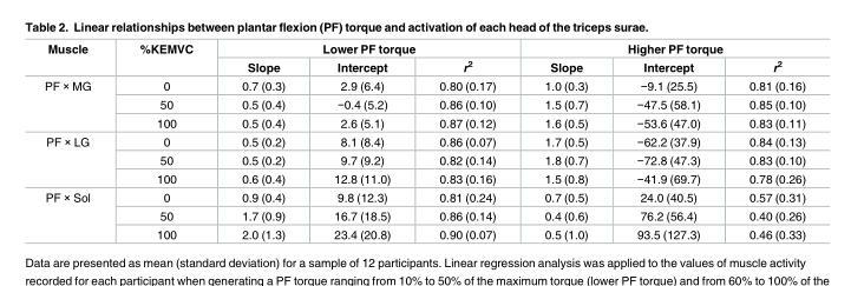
<table><thead><tr><td rowspan="2">Muscle</td><td rowspan="2">%KEMVC</td><td colspan="3">Lower PF torque</td><td colspan="3">Higher PF torque</td></tr><tr><td>Slope</td><td>Intercept</td><td>r<sup>2</sup></td><td>Slope</td><td>Intercept</td><td>r<sup>2</sup></td></tr></thead><tbody><tr><td rowspan="3">PF × MG</td><td>0</td><td>0.7 (0.3)</td><td>2.9 (6.4)</td><td>0.80 (0.17)</td><td>1.0 (0.3)</td><td>−9.1 (25.5)</td><td>0.81 (0.16)</td></tr><tr><td>50</td><td>0.5 (0.4)</td><td>−0.4 (5.2)</td><td>0.86 (0.10)</td><td>1.5 (0.7)</td><td>−47.5 (58.1)</td><td>0.85 (0.10)</td></tr><tr><td>100</td><td>0.5 (0.4)</td><td>2.6 (5.1)</td><td>0.87 (0.12)</td><td>1.6 (0.5)</td><td>−53.6 (47.0)</td><td>0.83 (0.11)</td></tr><tr><td rowspan="3">PF × LG</td><td>0</td><td>0.5 (0.2)</td><td>8.1 (8.4)</td><td>0.86 (0.07)</td><td>1.7 (0.5)</td><td>−62.2 (37.9)</td><td>0.84 (0.13)</td></tr><tr><td>50</td><td>0.5 (0.2)</td><td>9.7 (9.2)</td><td>0.82 (0.14)</td><td>1.8 (0.7)</td><td>−72.8 (47.3)</td><td>0.83 (0.10)</td></tr><tr><td>100</td><td>0.6 (0.4)</td><td>12.8 (11.0)</td><td>0.83 (0.16)</td><td>1.5 (0.8)</td><td>−41.9 (69.7)</td><td>0.78 (0.26)</td></tr><tr><td rowspan="3">PF × Sol</td><td>0</td><td>0.9 (0.4)</td><td>9.8 (12.3)</td><td>0.81 (0.24)</td><td>0.7 (0.5)</td><td>24.0 (40.5)</td><td>0.57 (0.31)</td></tr><tr><td>50</td><td>1.7 (0.9)</td><td>16.7 (18.5)</td><td>0.86 (0.14)</td><td>0.4 (0.6)</td><td>76.2 (56.4)</td><td>0.40 (0.26)</td></tr><tr><td>100</td><td>2.0 (1.3)</td><td>23.4 (20.8)</td><td>0.90 (0.07)</td><td>0.5 (1.0)</td><td>93.5 (127.3)</td><td>0.46 (0.33)</td></tr></tbody></table>